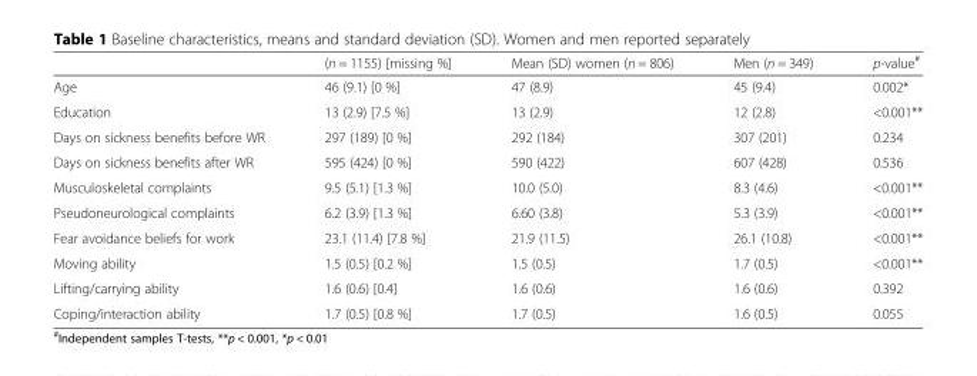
<table><thead><tr><td></td><td>(n = 1155) [missing %]</td><td>Mean (SD) women (n = 806)</td><td>Men (n = 349)</td><td>p-value<sup>#</sup></td></tr></thead><tbody><tr><td>Age</td><td>46 (9.1) [0 %]</td><td>47 (8.9)</td><td>45 (9.4)</td><td>0.002*</td></tr><tr><td>Education</td><td>13 (2.9) [7.5 %]</td><td>13 (2.9)</td><td>12 (2.8)</td><td>&lt;0.001**</td></tr><tr><td>Days on sickness benefits before WR</td><td>297 (189) [0 %]</td><td>292 (184)</td><td>307 (201)</td><td>0.234</td></tr><tr><td>Days on sickness benefits after WR</td><td>595 (424) [0 %]</td><td>590 (422)</td><td>607 (428)</td><td>0.536</td></tr><tr><td>Musculoskeletal complaints</td><td>9.5 (5.1) [1.3 %]</td><td>10.0 (5.0)</td><td>8.3 (4.6)</td><td>&lt;0.001**</td></tr><tr><td>Pseudoneurological complaints</td><td>6.2 (3.9) [1.3 %]</td><td>6.60 (3.8)</td><td>5.3 (3.9)</td><td>&lt;0.001**</td></tr><tr><td>Fear avoidance beliefs for work</td><td>23.1 (11.4) [7.8 %]</td><td>21.9 (11.5)</td><td>26.1 (10.8)</td><td>&lt;0.001**</td></tr><tr><td>Moving ability</td><td>1.5 (0.5) [0.2 %]</td><td>1.5 (0.5)</td><td>1.7 (0.5)</td><td>&lt;0.001**</td></tr><tr><td>Lifting/carrying ability</td><td>1.6 (0.6) [0.4]</td><td>1.6 (0.6)</td><td>1.6 (0.6)</td><td>0.392</td></tr><tr><td>Coping/interaction ability</td><td>1.7 (0.5) [0.8 %]</td><td>1.7 (0.5)</td><td>1.6 (0.5)</td><td>0.055</td></tr></tbody></table>